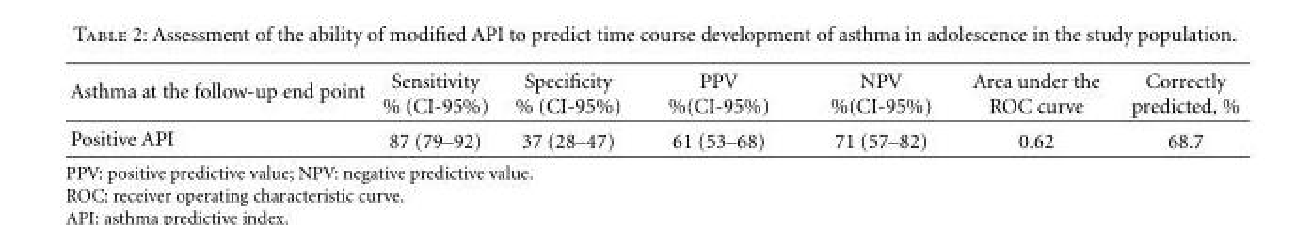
<table><thead><tr><td>Asthma at the follow-up end point</td><td>Sensitivity % (CI-95%)</td><td>Specificity % (CI-95%)</td><td>PPV %(CI-95%)</td><td>NPV %(CI-95%)</td><td>Area under the ROC curve</td><td>Correctly predicted, %</td></tr></thead><tbody><tr><td>Positive API</td><td>87 (79–92)</td><td>37 (28–47)</td><td>61 (53–68)</td><td>71 (57–82)</td><td>0.62</td><td>68.7</td></tr></tbody></table>